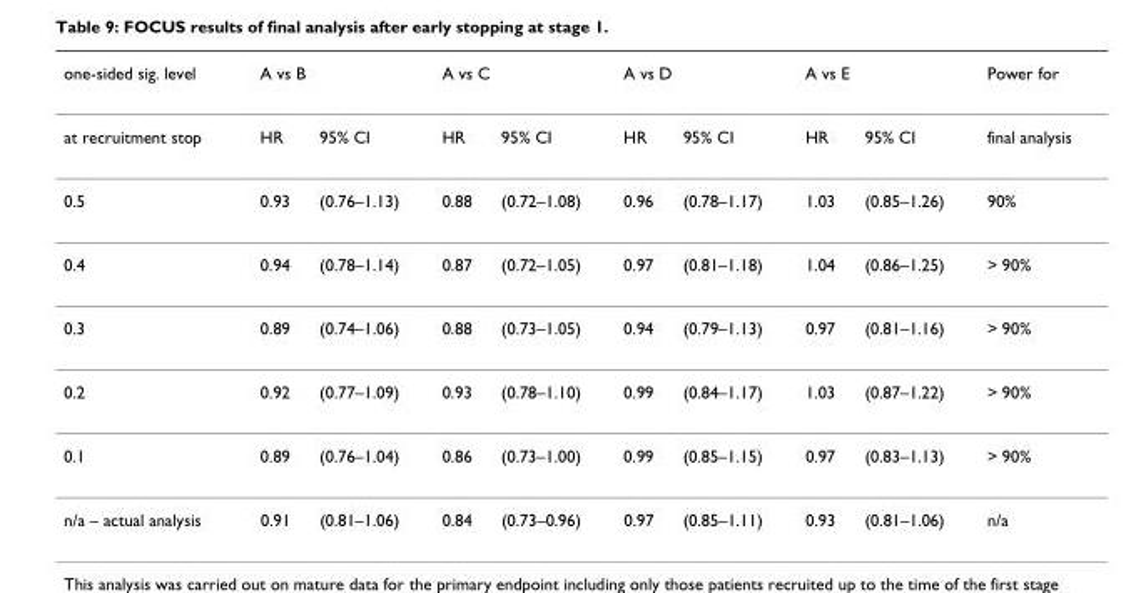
<table><thead><tr><td rowspan="2">one-sided sig. level at recruitment stop</td><td colspan="2">A vs B</td><td colspan="2">A vs C</td><td colspan="2">A vs D</td><td colspan="2">A vs E</td><td rowspan="2">Power for final analysis</td></tr><tr><td>HR</td><td>95% CI</td><td>HR</td><td>95% CI</td><td>HR</td><td>95% CI</td><td>HR</td><td>95% CI</td></tr></thead><tbody><tr><td>0.5</td><td>0.93</td><td>(0.76–1.13)</td><td>0.88</td><td>(0.72–1.08)</td><td>0.96</td><td>(0.78–1.17)</td><td>1.03</td><td>(0.85–1.26)</td><td>90%</td></tr><tr><td>0.4</td><td>0.94</td><td>(0.78–1.14)</td><td>0.87</td><td>(0.72–1.05)</td><td>0.97</td><td>(0.81–1.18)</td><td>1.04</td><td>(0.86–1.25)</td><td>&gt; 90%</td></tr><tr><td>0.3</td><td>0.89</td><td>(0.74–1.06)</td><td>0.88</td><td>(0.73–1.05)</td><td>0.94</td><td>(0.79–1.13)</td><td>0.97</td><td>(0.81–1.16)</td><td>&gt; 90%</td></tr><tr><td>0.2</td><td>0.92</td><td>(0.77–1.09)</td><td>0.93</td><td>(0.78–1.10)</td><td>0.99</td><td>(0.84–1.17)</td><td>1.03</td><td>(0.87–1.22)</td><td>&gt; 90%</td></tr><tr><td>0.1</td><td>0.89</td><td>(0.76–1.04)</td><td>0.86</td><td>(0.73–1.00)</td><td>0.99</td><td>(0.85–1.15)</td><td>0.97</td><td>(0.83–1.13)</td><td>&gt; 90%</td></tr><tr><td>n/a – actual analysis</td><td>0.91</td><td>(0.81–1.06)</td><td>0.84</td><td>(0.73–0.96)</td><td>0.97</td><td>(0.85–1.11)</td><td>0.93</td><td>(0.81–1.06)</td><td>n/a</td></tr></tbody></table>